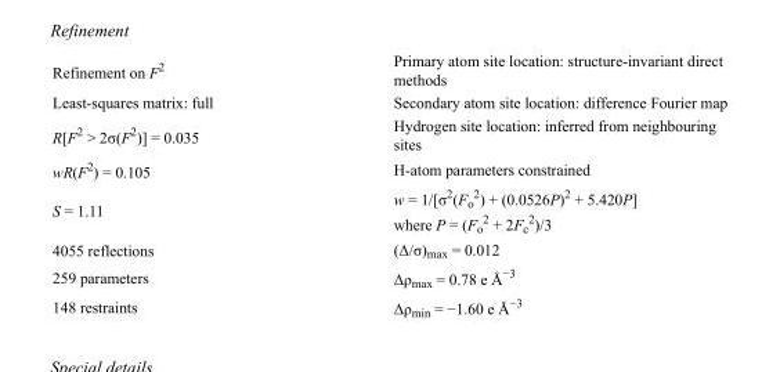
<table><tbody><tr><td>Refinement on F<sup>2</sup></td><td>Primary atom site location: structure-invariant direct methods</td></tr><tr><td>Least-squares matrix: full</td><td>Secondary atom site location: difference Fourier map</td></tr><tr><td>R[F<sup>2</sup> &gt; 2σ(F<sup>2</sup>)] = 0.035</td><td>Hydrogen site location: inferred from neighbouring sites</td></tr><tr><td>wR(F<sup>2</sup>) = 0.105</td><td>H-atom parameters constrained</td></tr><tr><td>S = 1.11</td><td>w = 1/[σ<sup>2</sup>(F<sub>o</sub> <sup>2</sup>) + (0.0526P)<sup>2</sup> + 5.420P] where P = (F<sub>o</sub> <sup>2</sup> + 2F<sub>c</sub> <sup>2</sup>)/3</td></tr><tr><td>4055 reflections</td><td>(Δ/σ)<sub>max</sub> = 0.012</td></tr><tr><td>259 parameters</td><td>Δρ<sub>max</sub> = 0.78 e Å<sup>−3</sup></td></tr><tr><td>148 restraints</td><td>Δρ<sub>min</sub> = −1.60 e Å<sup>−3</sup></td></tr></tbody></table>